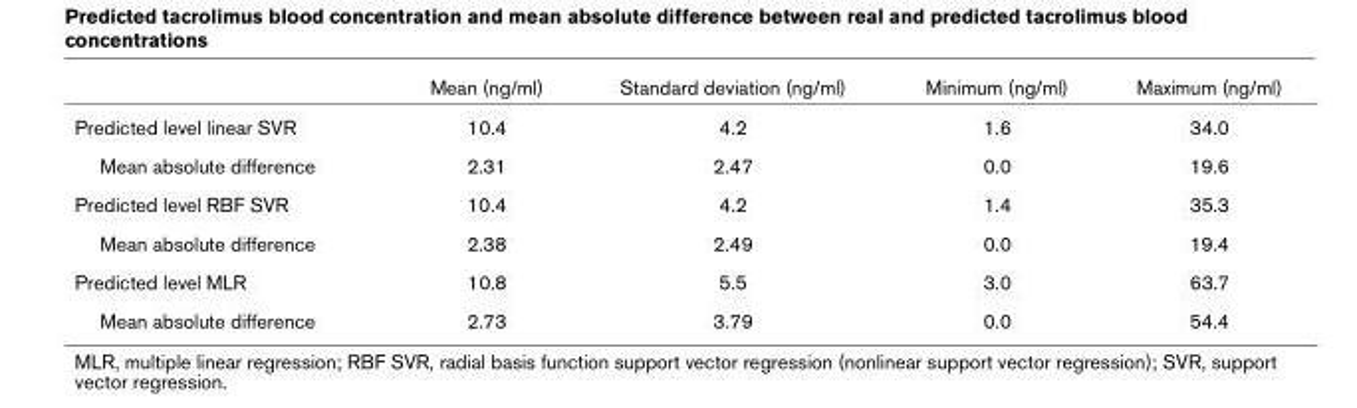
<table><thead><tr><td></td><td>Mean (ng/ml)</td><td>Standard deviation (ng/ml)</td><td>Minimum (ng/ml)</td><td>Maximum (ng/ml)</td></tr></thead><tbody><tr><td>Predicted level linear SVR</td><td>10.4</td><td>4.2</td><td>1.6</td><td>34.0</td></tr><tr><td>Mean absolute difference</td><td>2.31</td><td>2.47</td><td>0.0</td><td>19.6</td></tr><tr><td>Predicted level RBF SVR</td><td>10.4</td><td>4.2</td><td>1.4</td><td>35.3</td></tr><tr><td>Mean absolute difference</td><td>2.38</td><td>2.49</td><td>0.0</td><td>19.4</td></tr><tr><td>Predicted level MLR</td><td>10.8</td><td>5.5</td><td>3.0</td><td>63.7</td></tr><tr><td>Mean absolute difference</td><td>2.73</td><td>3.79</td><td>0.0</td><td>54.4</td></tr></tbody></table>